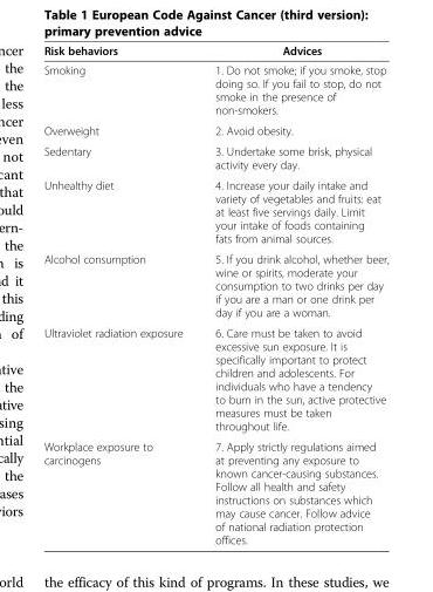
<table><thead><tr><td>Risk behaviors</td><td>Advices</td></tr></thead><tbody><tr><td>Smoking</td><td>1. Do not smoke; if you smoke, stop doing so. If you fail to stop, do not smoke in the presence of non-smokers.</td></tr><tr><td>Overweight</td><td>2. Avoid obesity.</td></tr><tr><td>Sedentary</td><td>3. Undertake some brisk, physical activity every day.</td></tr><tr><td>Unhealthy diet</td><td>4. Increase your daily intake and variety of vegetables and fruits: eat at least five servings daily. Limit your intake of foods containing fats from animal sources.</td></tr><tr><td>Alcohol consumption</td><td>5. If you drink alcohol, whether beer, wine or spirits, moderate your consumption to two drinks per day if you are a man or one drink per day if you are a woman.</td></tr><tr><td>Ultraviolet radiation exposure</td><td>6. Care must be taken to avoid excessive sun exposure. It is specifically important to protect children and adolescents. For individuals who have a tendency to burn in the sun, active protective measures must be taken throughout life.</td></tr><tr><td>Workplace exposure to carcinogens</td><td>7. Apply strictly regulations aimed at preventing any exposure to known cancer-causing substances. Follow all health and safety instructions on substances which may cause cancer. Follow advice of national radiation protection offices.</td></tr></tbody></table>